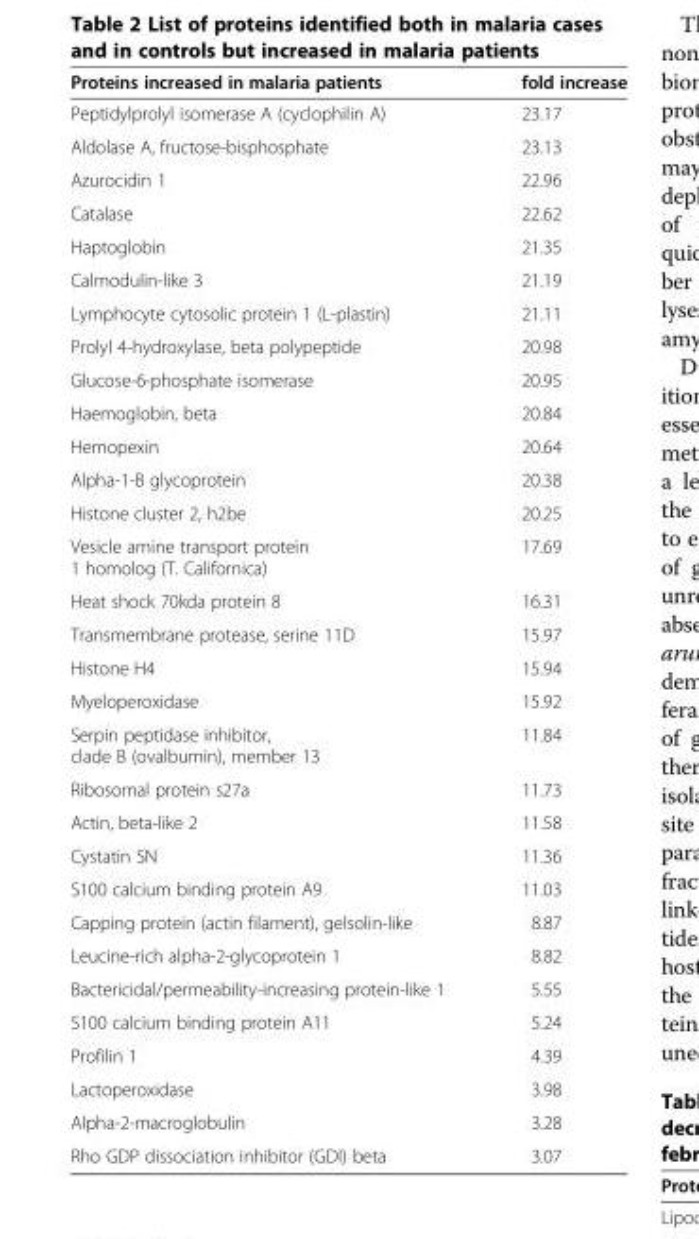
<table><thead><tr><td>Proteins increased in malaria patients</td><td>fold increase</td></tr></thead><tbody><tr><td>Peptidylprolyl isomerase A (cyclophilin A)</td><td>23.17</td></tr><tr><td>Aldolase A, fructose-bisphosphate</td><td>23.13</td></tr><tr><td>Azurocidin 1</td><td>22.96</td></tr><tr><td>Catalase</td><td>22.62</td></tr><tr><td>Haptoglobin</td><td>21.35</td></tr><tr><td>Calmodulin-like 3</td><td>21.19</td></tr><tr><td>Lymphocyte cytosolic protein 1 (L-plastin)</td><td>21.11</td></tr><tr><td>Prolyl 4-hydroxylase, beta polypeptide</td><td>20.98</td></tr><tr><td>Glucose-6-phosphate isomerase</td><td>20.95</td></tr><tr><td>Haemoglobin, beta</td><td>20.84</td></tr><tr><td>Hemopexin</td><td>20.64</td></tr><tr><td>Alpha-1-B glycoprotein</td><td>20.38</td></tr><tr><td>Histone cluster 2, h2be</td><td>20.25</td></tr><tr><td>Vesicle amine transport protein 1 homolog (T. Californica)</td><td>17.69</td></tr><tr><td>Heat shock 70kda protein 8</td><td>16.31</td></tr><tr><td>Transmembrane protease, serine 11D</td><td>15.97</td></tr><tr><td>Histone H4</td><td>15.94</td></tr><tr><td>Myeloperoxidase</td><td>15.92</td></tr><tr><td>Serpin peptidase inhibitor, clade B (ovalbumin), member 13</td><td>11.84</td></tr><tr><td>Ribosomal protein s27a</td><td>11.73</td></tr><tr><td>Actin, beta-like 2</td><td>11.58</td></tr><tr><td>Cystatin SN</td><td>11.36</td></tr><tr><td>S100 calcium binding protein A9</td><td>11.03</td></tr><tr><td>Capping protein (actin filament), gelsolin-like</td><td>8.87</td></tr><tr><td>Leucine-rich alpha-2-glycoprotein 1</td><td>8.82</td></tr><tr><td>Bactericidal/permeability-increasing protein-like 1</td><td>5.55</td></tr><tr><td>S100 calcium binding protein A11</td><td>5.24</td></tr><tr><td>Profilin 1</td><td>4.39</td></tr><tr><td>Lactoperoxidase</td><td>3.98</td></tr><tr><td>Alpha-2-macroglobulin</td><td>3.28</td></tr><tr><td>Rho GDP dissociation inhibitor (GDI) beta</td><td>3.07</td></tr></tbody></table>